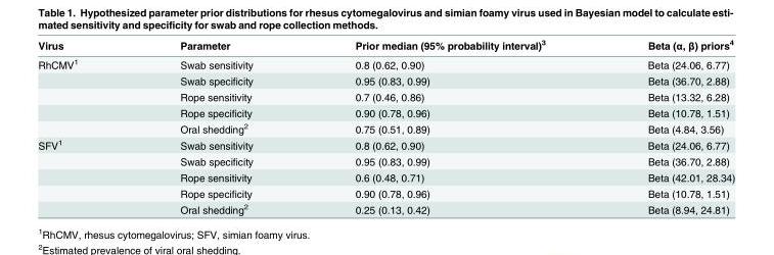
<table><thead><tr><td>Virus</td><td>Parameter</td><td>Prior median (95% probability interval)<sup>3</sup></td><td>Beta (α, β) priors<sup>4</sup></td></tr></thead><tbody><tr><td rowspan="5">RhCMV<sup>1</sup></td><td>Swab sensitivity</td><td>0.8 (0.62, 0.90)</td><td>Beta (24.06, 6.77)</td></tr><tr><td>Swab specificity</td><td>0.95 (0.83, 0.99)</td><td>Beta (36.70, 2.88)</td></tr><tr><td>Rope sensitivity</td><td>0.7 (0.46, 0.86)</td><td>Beta (13.32, 6.28)</td></tr><tr><td>Rope specificity</td><td>0.90 (0.78, 0.96)</td><td>Beta (10.78, 1.51)</td></tr><tr><td>Oral shedding<sup>2</sup></td><td>0.75 (0.51, 0.89)</td><td>Beta (4.84, 3.56)</td></tr><tr><td rowspan="5">SFV<sup>1</sup></td><td>Swab sensitivity</td><td>0.8 (0.62, 0.90)</td><td>Beta (24.06, 6.77)</td></tr><tr><td>Swab specificity</td><td>0.95 (0.83, 0.99)</td><td>Beta (36.70, 2.88)</td></tr><tr><td>Rope sensitivity</td><td>0.6 (0.48, 0.71)</td><td>Beta (42.01, 28.34)</td></tr><tr><td>Rope specificity</td><td>0.90 (0.78, 0.96)</td><td>Beta (10.78, 1.51)</td></tr><tr><td>Oral shedding<sup>2</sup></td><td>0.25 (0.13, 0.42)</td><td>Beta (8.94, 24.81)</td></tr></tbody></table>